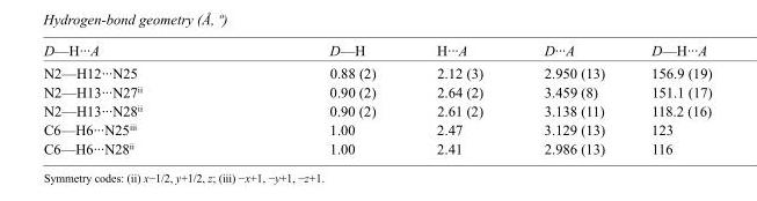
<table><tbody><tr><td>D—H···A</td><td>D—H</td><td>H···A</td><td>D···A</td><td>D—H···A</td></tr><tr><td>N2—H12···N25</td><td>0.88 (2)</td><td>2.12 (3)</td><td>2.950 (13)</td><td>156.9 (19)</td></tr><tr><td>N2—H13···N27<sup>ii</sup></td><td>0.90 (2)</td><td>2.64 (2)</td><td>3.459 (8)</td><td>151.1 (17)</td></tr><tr><td>N2—H13···N28<sup>ii</sup></td><td>0.90 (2)</td><td>2.61 (2)</td><td>3.138 (11)</td><td>118.2 (16)</td></tr><tr><td>C6—H6···N25<sup>iii</sup></td><td>1.00</td><td>2.47</td><td>3.129 (13)</td><td>123</td></tr><tr><td>C6—H6···N28<sup>ii</sup></td><td>1.00</td><td>2.41</td><td>2.986 (13)</td><td>116</td></tr></tbody></table>